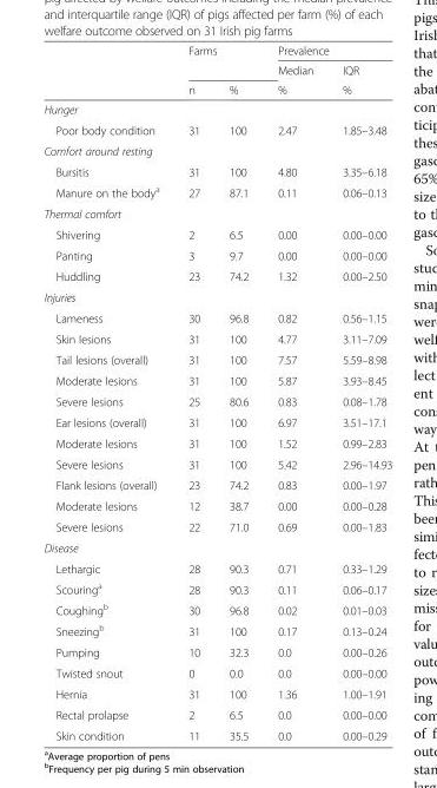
<table><thead><tr><td rowspan="3"></td><td rowspan="2" colspan="2">Farms</td><td colspan="2">Prevalence</td></tr><tr><td rowspan="2">Median %</td><td rowspan="2">IQR %</td></tr><tr><td>n</td><td>%</td></tr></thead><tbody><tr><td colspan="5">Hunger</td></tr><tr><td>Poor body condition</td><td>31</td><td>100</td><td>2.47</td><td>1.85–3.48</td></tr><tr><td colspan="5">Comfort around resting</td></tr><tr><td>Bursitis</td><td>31</td><td>100</td><td>4.80</td><td>3.35–6.18</td></tr><tr><td>Manure on the body<sup>a</sup></td><td>27</td><td>87.1</td><td>0.11</td><td>0.06–0.13</td></tr><tr><td colspan="5">Thermal comfort</td></tr><tr><td>Shivering</td><td>2</td><td>6.5</td><td>0.00</td><td>0.00–0.00</td></tr><tr><td>Panting</td><td>3</td><td>9.7</td><td>0.00</td><td>0.00–0.00</td></tr><tr><td>Huddling</td><td>23</td><td>74.2</td><td>1.32</td><td>0.00–2.50</td></tr><tr><td colspan="5">Injuries</td></tr><tr><td>Lameness</td><td>30</td><td>96.8</td><td>0.82</td><td>0.56–1.15</td></tr><tr><td>Skin lesions</td><td>31</td><td>100</td><td>4.77</td><td>3.11–7.09</td></tr><tr><td>Tail lesions (overall)</td><td>31</td><td>100</td><td>7.57</td><td>5.59–8.98</td></tr><tr><td>Moderate lesions</td><td>31</td><td>100</td><td>5.87</td><td>3.93–8.45</td></tr><tr><td>Severe lesions</td><td>25</td><td>80.6</td><td>0.83</td><td>0.08–1.78</td></tr><tr><td>Ear lesions (overall)</td><td>31</td><td>100</td><td>6.97</td><td>3.51–17.1</td></tr><tr><td>Moderate lesions</td><td>31</td><td>100</td><td>1.52</td><td>0.99–2.83</td></tr><tr><td>Severe lesions</td><td>31</td><td>100</td><td>5.42</td><td>2.96–14.93</td></tr><tr><td>Flank lesions (overall)</td><td>23</td><td>74.2</td><td>0.83</td><td>0.00–1.97</td></tr><tr><td>Moderate lesions</td><td>12</td><td>38.7</td><td>0.00</td><td>0.00–0.28</td></tr><tr><td>Severe lesions</td><td>22</td><td>71.0</td><td>0.69</td><td>0.00–1.83</td></tr><tr><td colspan="5">Disease</td></tr><tr><td>Lethargic</td><td>28</td><td>90.3</td><td>0.71</td><td>0.33–1.29</td></tr><tr><td>Scouring<sup>a</sup></td><td>28</td><td>90.3</td><td>0.11</td><td>0.06–0.17</td></tr><tr><td>Coughing<sup>b</sup></td><td>30</td><td>96.8</td><td>0.02</td><td>0.01–0.03</td></tr><tr><td>Sneezing<sup>b</sup></td><td>31</td><td>100</td><td>0.17</td><td>0.13–0.24</td></tr><tr><td>Pumping</td><td>10</td><td>32.3</td><td>0.0</td><td>0.00–0.26</td></tr><tr><td>Twisted snout</td><td>0</td><td>0.0</td><td>0.0</td><td>0.00–0.00</td></tr><tr><td>Hernia</td><td>31</td><td>100</td><td>1.36</td><td>1.00–1.91</td></tr><tr><td>Rectal prolapse</td><td>2</td><td>6.5</td><td>0.0</td><td>0.00–0.00</td></tr><tr><td>Skin condition</td><td>11</td><td>35.5</td><td>0.0</td><td>0.00–0.29</td></tr></tbody></table>